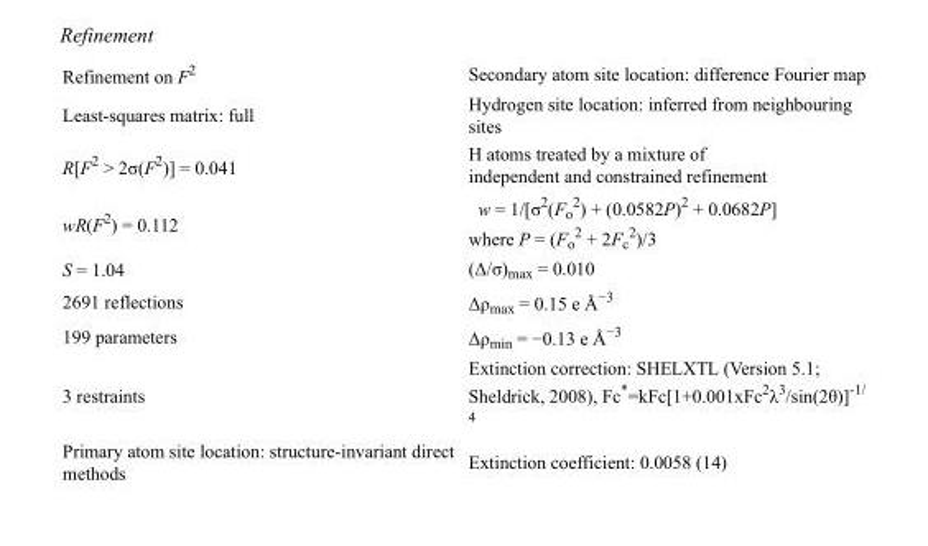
<table><tbody><tr><td>Refinement on F<sup>2</sup></td><td>Secondary atom site location: difference Fourier map</td></tr><tr><td>Least-squares matrix: full</td><td>Hydrogen site location: inferred from neighbouring sites</td></tr><tr><td>R[F<sup>2</sup> &gt; 2σ(F<sup>2</sup>)] = 0.041</td><td>H atoms treated by a mixture of independent and constrained refinement</td></tr><tr><td>wR(F<sup>2</sup>) = 0.112</td><td>w = 1/[σ<sup>2</sup>(F<sub>o</sub> <sup>2</sup>) + (0.0582P)<sup>2</sup> + 0.0682P] where P = (F<sub>o</sub> <sup>2</sup> + 2F<sub>c</sub> <sup>2</sup>)/3</td></tr><tr><td>S = 1.04</td><td>(Δ/σ)<sub>max</sub> = 0.010</td></tr><tr><td>2691 reflections</td><td>Δρ<sub>max</sub> = 0.15 e Å<sup>−3</sup></td></tr><tr><td>199 parameters</td><td>Δρ<sub>min</sub> = −0.13 e Å<sup>−3</sup></td></tr><tr><td>3 restraints</td><td>Extinction correction: SHELXTL (Version 5.1; Sheldrick, 2008), Fc*=kFc[1+0.001xFc<sup>2</sup>λ<sup>3</sup>/sin(2θ)]<sup>-1/ 4</sup></td></tr><tr><td>Primary atom site location: structure-invariant direct methods</td><td>Extinction coefficient: 0.0058 (14)</td></tr></tbody></table>